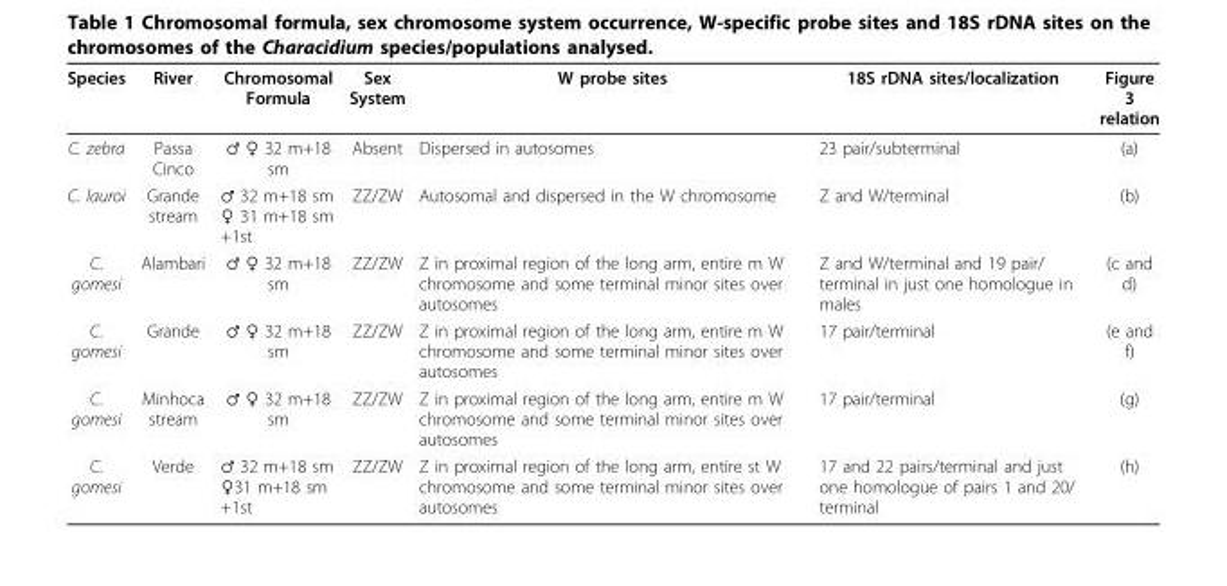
<table><thead><tr><td>Species</td><td>River</td><td>Chromosomal Formula</td><td>Sex System</td><td>W probe sites</td><td>18S rDNA sites/localization</td><td>Figure 3 relation</td></tr></thead><tbody><tr><td>C. zebra</td><td>Passa Cinco</td><td>♂ ♀ 32 m+18 sm</td><td>Absent</td><td>Dispersed in autosomes</td><td>23 pair/subterminal</td><td>(a)</td></tr><tr><td>C. lauroi</td><td>Grande stream</td><td>♂ 32 m+18 sm ♀ 31 m+18 sm +1st</td><td>ZZ/ZW</td><td>Autosomal and dispersed in the W chromosome</td><td>Z and W/terminal</td><td>(b)</td></tr><tr><td>C. gomesi</td><td>Alambari</td><td>♂ ♀ 32 m+18 sm</td><td>ZZ/ZW</td><td>Z in proximal region of the long arm, entire m W chromosome and some terminal minor sites over autosomes</td><td>Z and W/terminal and 19 pair/ terminal in just one homologue in males</td><td>(c and d)</td></tr><tr><td>C. gomesi</td><td>Grande</td><td>♂ ♀ 32 m+18 sm</td><td>ZZ/ZW</td><td>Z in proximal region of the long arm, entire m W chromosome and some terminal minor sites over autosomes</td><td>17 pair/terminal</td><td>(e and f)</td></tr><tr><td>C. gomesi</td><td>Minhoca stream</td><td>♂ ♀ 32 m+18 sm</td><td>ZZ/ZW</td><td>Z in proximal region of the long arm, entire m W chromosome and some terminal minor sites over autosomes</td><td>17 pair/terminal</td><td>(g)</td></tr><tr><td>C. gomesi</td><td>Verde</td><td>♂ 32 m+18 sm ♀31 m+18 sm +1st</td><td>ZZ/ZW</td><td>Z in proximal region of the long arm, entire st W chromosome and some terminal minor sites over autosomes</td><td>17 and 22 pairs/terminal and just one homologue of pairs 1 and 20/ terminal</td><td>(h)</td></tr></tbody></table>